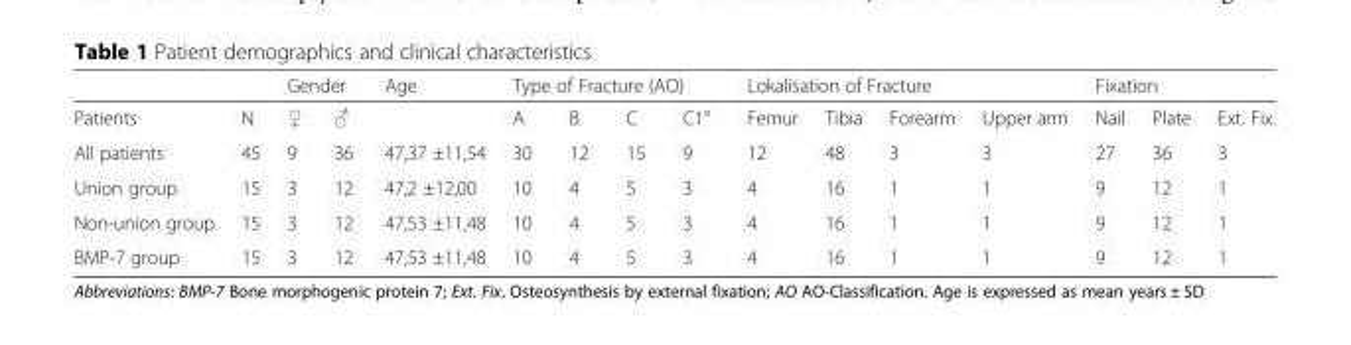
<table><thead><tr><td rowspan="2">Patients</td><td rowspan="2">N</td><td colspan="2">Gender</td><td rowspan="2">Age</td><td colspan="4">Type of Fracture (AO)</td><td colspan="4">Lokalisation of Fracture</td><td colspan="3">Fixation</td></tr><tr><td>♀</td><td>♂</td><td>A</td><td>B</td><td>C</td><td>C1°</td><td>Femur</td><td>Tibia</td><td>Forearm</td><td>Upper arm</td><td>Nail</td><td>Plate</td><td>Ext. Fix.</td></tr></thead><tbody><tr><td>All patients</td><td>45</td><td>9</td><td>36</td><td>47,37 ±11,54</td><td>30</td><td>12</td><td>15</td><td>9</td><td>12</td><td>48</td><td>3</td><td>3</td><td>27</td><td>36</td><td>3</td></tr><tr><td>Union group</td><td>15</td><td>3</td><td>12</td><td>47,2 ±12,00</td><td>10</td><td>4</td><td>5</td><td>3</td><td>4</td><td>16</td><td>1</td><td>1</td><td>9</td><td>12</td><td>1</td></tr><tr><td>Non-union group</td><td>15</td><td>3</td><td>12</td><td>47,53 ±11,48</td><td>10</td><td>4</td><td>5</td><td>3</td><td>4</td><td>16</td><td>1</td><td>1</td><td>9</td><td>12</td><td>1</td></tr><tr><td>BMP-7 group</td><td>15</td><td>3</td><td>12</td><td>47,53 ±11,48</td><td>10</td><td>4</td><td>5</td><td>3</td><td>4</td><td>16</td><td>1</td><td>1</td><td>9</td><td>12</td><td>1</td></tr></tbody></table>